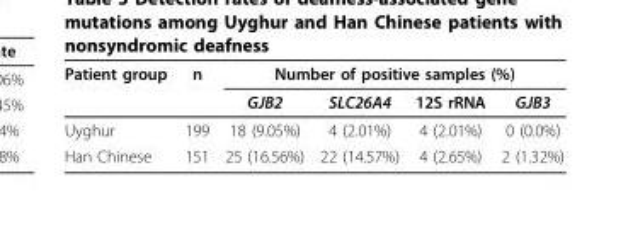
<table><thead><tr><td rowspan="2">Patient group</td><td rowspan="2">n</td><td colspan="4">Number of positive samples (%)</td></tr><tr><td>GJB2</td><td>SLC26A4</td><td>12S rRNA</td><td>GJB3</td></tr></thead><tbody><tr><td>Uyghur</td><td>199</td><td>18 (9.05%)</td><td>4 (2.01%)</td><td>4 (2.01%)</td><td>0 (0.0%)</td></tr><tr><td>Han Chinese</td><td>151</td><td>25 (16.56%)</td><td>22 (14.57%)</td><td>4 (2.65%)</td><td>2 (1.32%)</td></tr></tbody></table>